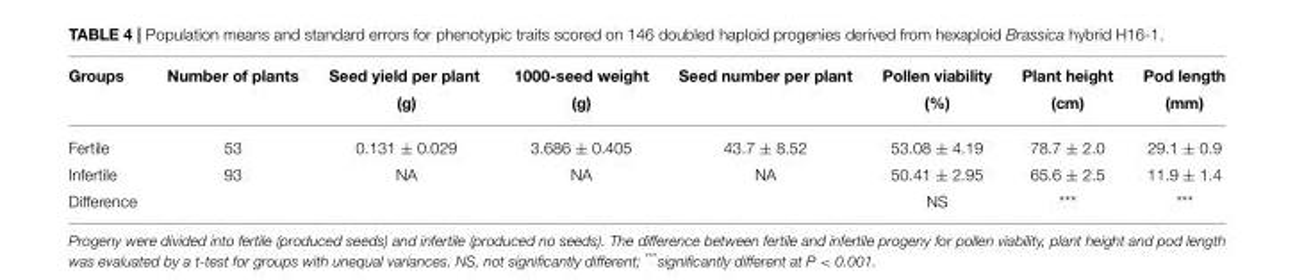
<table><thead><tr><td rowspan="2">Groups</td><td rowspan="2">Number of plants</td><td rowspan="2">Seed yield per plant (g)</td><td rowspan="2">1000-seed weight (g)</td><td rowspan="2">Seed number per plant</td><td rowspan="2">Pollen viability (%)</td><td rowspan="2">Plant height (cm)</td><td rowspan="2">Pod length (mm)</td></tr><tr></tr></thead><tbody><tr><td>Fertile</td><td>53</td><td>0.131 ± 0.029</td><td>3.686 ± 0.405</td><td>43.7 ± 8.52</td><td>53.08 ± 4.19</td><td>78.7 ± 2.0</td><td>29.1 ± 0.9</td></tr><tr><td>Infertile</td><td>93</td><td>NA</td><td>NA</td><td>NA</td><td>50.41 ± 2.95</td><td>65.6 ± 2.5</td><td>11.9 ± 1.4</td></tr><tr><td>Difference</td><td></td><td></td><td></td><td></td><td>NS</td><td>***</td><td>***</td></tr></tbody></table>